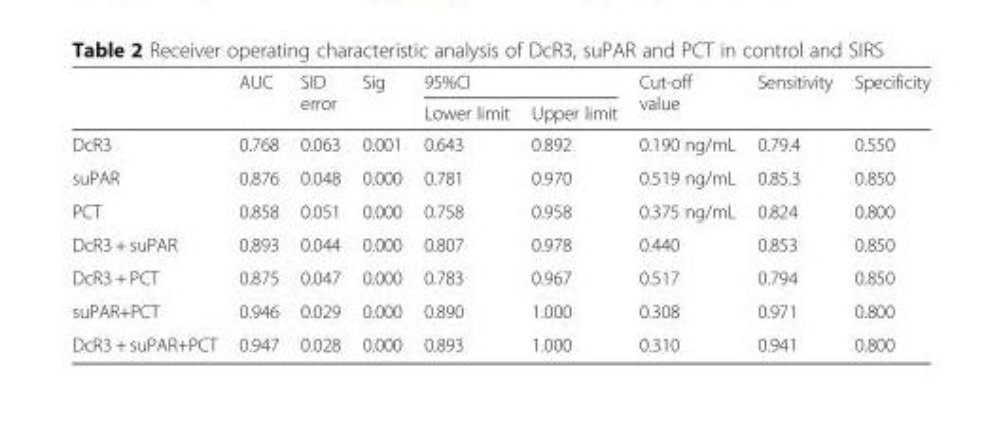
<table><thead><tr><td rowspan="2"></td><td rowspan="2">AUC</td><td rowspan="2">SID error</td><td rowspan="2">Sig</td><td colspan="2">95%CI</td><td rowspan="2">Cut-off value</td><td rowspan="2">Sensitivity</td><td rowspan="2">Specificity</td></tr><tr><td>Lower limit</td><td>Upper limit</td></tr></thead><tbody><tr><td>DcR3</td><td>0.768</td><td>0.063</td><td>0.001</td><td>0.643</td><td>0.892</td><td>0.190 ng/mL</td><td>0.79.4</td><td>0.550</td></tr><tr><td>suPAR</td><td>0.876</td><td>0.048</td><td>0.000</td><td>0.781</td><td>0.970</td><td>0.519 ng/mL</td><td>0.85.3</td><td>0.850</td></tr><tr><td>PCT</td><td>0.858</td><td>0.051</td><td>0.000</td><td>0.758</td><td>0.958</td><td>0.375 ng/mL</td><td>0.824</td><td>0.800</td></tr><tr><td>DcR3 + suPAR</td><td>0.893</td><td>0.044</td><td>0.000</td><td>0.807</td><td>0.978</td><td>0.440</td><td>0.853</td><td>0.850</td></tr><tr><td>DcR3 + PCT</td><td>0.875</td><td>0.047</td><td>0.000</td><td>0.783</td><td>0.967</td><td>0.517</td><td>0.794</td><td>0.850</td></tr><tr><td>suPAR+PCT</td><td>0.946</td><td>0.029</td><td>0.000</td><td>0.890</td><td>1.000</td><td>0.308</td><td>0.971</td><td>0.800</td></tr><tr><td>DcR3 + suPAR+PCT</td><td>0.947</td><td>0.028</td><td>0.000</td><td>0.893</td><td>1.000</td><td>0.310</td><td>0.941</td><td>0.800</td></tr></tbody></table>